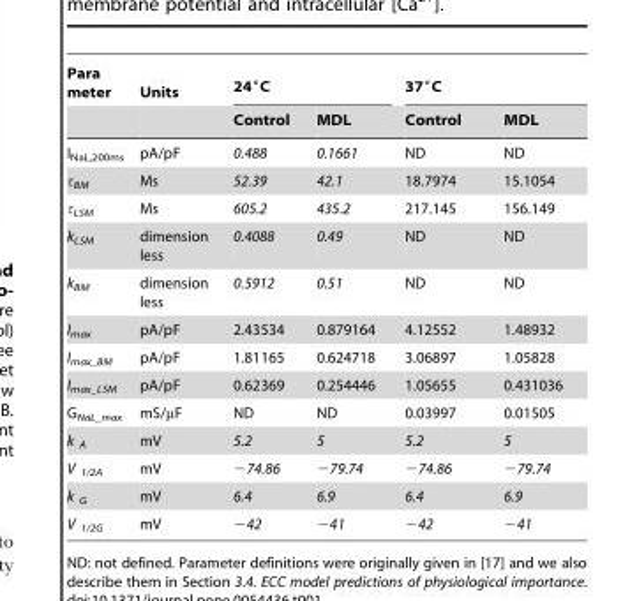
<table><thead><tr><td rowspan="2">Para meter</td><td rowspan="2">Units</td><td colspan="2">24°C</td><td colspan="2">37°C</td></tr><tr><td>Control</td><td>MDL</td><td>Control</td><td>MDL</td></tr></thead><tbody><tr><td>I<sub>NaL,200ms</sub></td><td>pA/pF</td><td>0.488</td><td>0.1661</td><td>ND</td><td>ND</td></tr><tr><td>τ<sub>BM</sub></td><td>Ms</td><td>52.39</td><td>42.1</td><td>18.7974</td><td>15.1054</td></tr><tr><td>τ<sub>LSM</sub></td><td>Ms</td><td>605.2</td><td>435.2</td><td>217.145</td><td>156.149</td></tr><tr><td>k<sub>LSM</sub></td><td>dimension less</td><td>0.4088</td><td>0.49</td><td>ND</td><td>ND</td></tr><tr><td>k<sub>BM</sub></td><td>dimension less</td><td>0.5912</td><td>0.51</td><td>ND</td><td>ND</td></tr><tr><td>I<sub>max</sub></td><td>pA/pF</td><td>2.43534</td><td>0.879164</td><td>4.12552</td><td>1.48932</td></tr><tr><td>I<sub>max_BM</sub></td><td>pA/pF</td><td>1.81165</td><td>0.624718</td><td>3.06897</td><td>1.05828</td></tr><tr><td>I<sub>max_LSM</sub></td><td>pA/pF</td><td>0.62369</td><td>0.254446</td><td>1.05655</td><td>0.431036</td></tr><tr><td>G<sub>NaL_max</sub></td><td>mS/μF</td><td>ND</td><td>ND</td><td>0.03997</td><td>0.01505</td></tr><tr><td>k <sub>A</sub></td><td>mV</td><td>5.2</td><td>5</td><td>5.2</td><td>5</td></tr><tr><td>V <sub>1/2A</sub></td><td>mV</td><td>−74.86</td><td>−79.74</td><td>−74.86</td><td>−79.74</td></tr><tr><td>k <sub>G</sub></td><td>mV</td><td>6.4</td><td>6.9</td><td>6.4</td><td>6.9</td></tr><tr><td>V <sub>1/2G</sub></td><td>mV</td><td>−42</td><td>−41</td><td>−42</td><td>−41</td></tr></tbody></table>